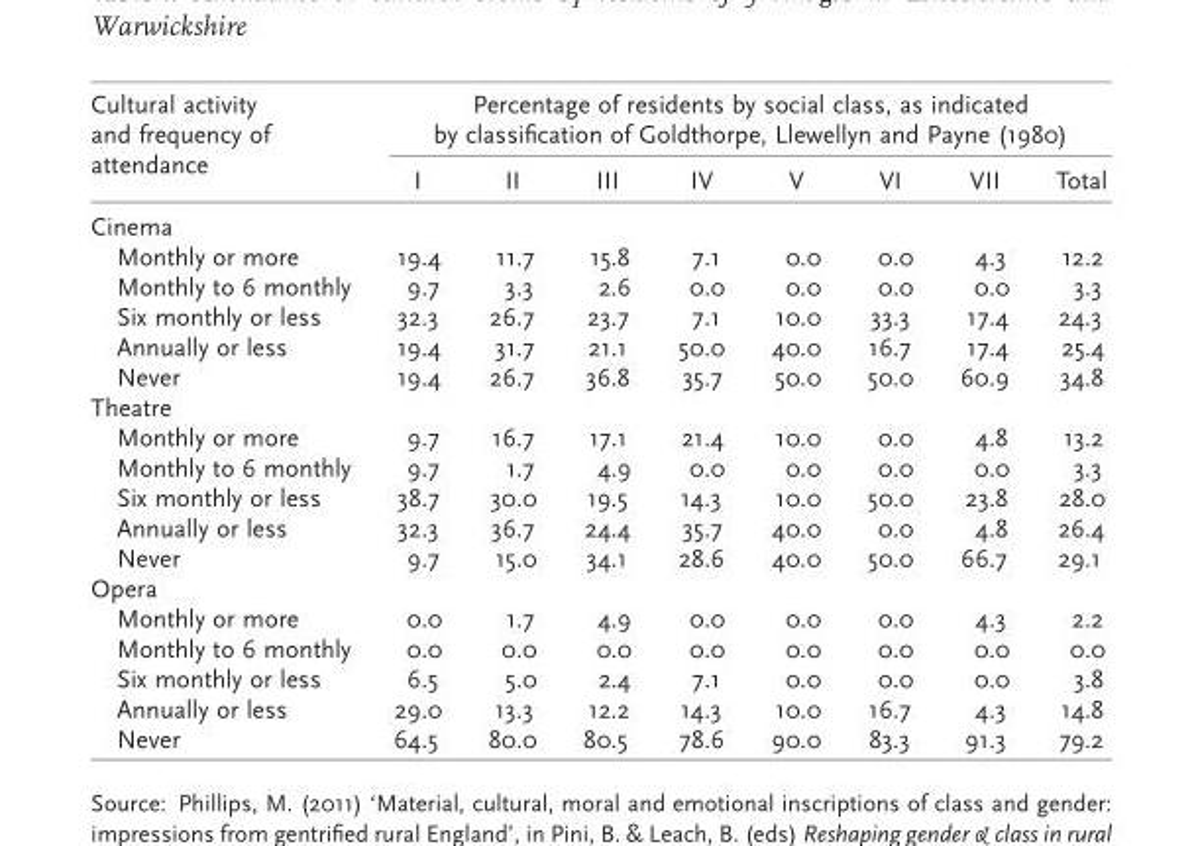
<table><thead><tr><td rowspan="2">Cultural activity and frequency of attendance</td><td colspan="8">Percentage of residents by social class, as indicated by classification of Goldthorpe, Llewellyn and Payne (1980)</td></tr><tr><td>I</td><td>II</td><td>III</td><td>IV</td><td>V</td><td>VI</td><td>VII</td><td>Total</td></tr></thead><tbody><tr><td colspan="9">Cinema</td></tr><tr><td>Monthly or more</td><td>19.4</td><td>11.7</td><td>15.8</td><td>7.1</td><td>0.0</td><td>0.0</td><td>4.3</td><td>12.2</td></tr><tr><td>Monthly to 6 monthly</td><td>9.7</td><td>3.3</td><td>2.6</td><td>0.0</td><td>0.0</td><td>0.0</td><td>0.0</td><td>3.3</td></tr><tr><td>Six monthly or less</td><td>32.3</td><td>26.7</td><td>23.7</td><td>7.1</td><td>10.0</td><td>33.3</td><td>17.4</td><td>24.3</td></tr><tr><td>Annually or less</td><td>19.4</td><td>31.7</td><td>21.1</td><td>50.0</td><td>40.0</td><td>16.7</td><td>17.4</td><td>25.4</td></tr><tr><td>Never</td><td>19.4</td><td>26.7</td><td>36.8</td><td>35.7</td><td>50.0</td><td>50.0</td><td>60.9</td><td>34.8</td></tr><tr><td colspan="9">Theatre</td></tr><tr><td>Monthly or more</td><td>9.7</td><td>16.7</td><td>17.1</td><td>21.4</td><td>10.0</td><td>0.0</td><td>4.8</td><td>13.2</td></tr><tr><td>Monthly to 6 monthly</td><td>9.7</td><td>1.7</td><td>4.9</td><td>0.0</td><td>0.0</td><td>0.0</td><td>0.0</td><td>3.3</td></tr><tr><td>Six monthly or less</td><td>38.7</td><td>30.0</td><td>19.5</td><td>14.3</td><td>10.0</td><td>50.0</td><td>23.8</td><td>28.0</td></tr><tr><td>Annually or less</td><td>32.3</td><td>36.7</td><td>24.4</td><td>35.7</td><td>40.0</td><td>0.0</td><td>4.8</td><td>26.4</td></tr><tr><td>Never</td><td>9.7</td><td>15.0</td><td>34.1</td><td>28.6</td><td>40.0</td><td>50.0</td><td>66.7</td><td>29.1</td></tr><tr><td colspan="9">Opera</td></tr><tr><td>Monthly or more</td><td>0.0</td><td>1.7</td><td>4.9</td><td>0.0</td><td>0.0</td><td>0.0</td><td>4.3</td><td>2.2</td></tr><tr><td>Monthly to 6 monthly</td><td>0.0</td><td>0.0</td><td>0.0</td><td>0.0</td><td>0.0</td><td>0.0</td><td>0.0</td><td>0.0</td></tr><tr><td>Six monthly or less</td><td>6.5</td><td>5.0</td><td>2.4</td><td>7.1</td><td>0.0</td><td>0.0</td><td>0.0</td><td>3.8</td></tr><tr><td>Annually or less</td><td>29.0</td><td>13.3</td><td>12.2</td><td>14.3</td><td>10.0</td><td>16.7</td><td>4.3</td><td>14.8</td></tr><tr><td>Never</td><td>64.5</td><td>80.0</td><td>80.5</td><td>78.6</td><td>90.0</td><td>83.3</td><td>91.3</td><td>79.2</td></tr></tbody></table>